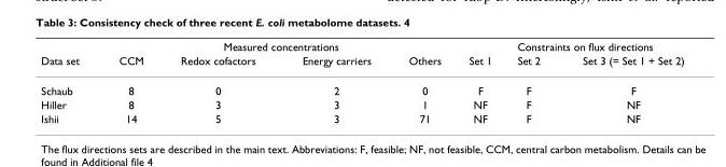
<table><thead><tr><td rowspan="2">Data set</td><td colspan="4">Measured concentrations</td><td colspan="3">Constraints on flux directions</td></tr><tr><td>CCM</td><td>Redox cofactors</td><td>Energy carriers</td><td>Others</td><td>Set 1</td><td>Set 2</td><td>Set 3 (= Set 1 + Set 2)</td></tr></thead><tbody><tr><td>Schaub</td><td>8</td><td>0</td><td>2</td><td>0</td><td>F</td><td>F</td><td>F</td></tr><tr><td>Hiller</td><td>8</td><td>3</td><td>3</td><td>1</td><td>NF</td><td>F</td><td>NF</td></tr><tr><td>Ishii</td><td>14</td><td>5</td><td>3</td><td>71</td><td>NF</td><td>F</td><td>NF</td></tr></tbody></table>